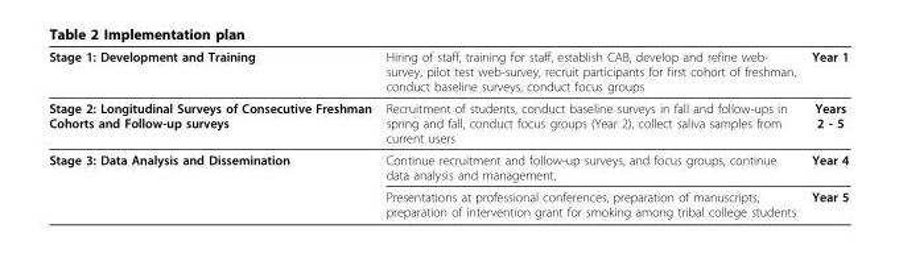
<table><thead><tr><td>Stage 1: Development and Training</td><td>Hiring of staff, training for staff, establish CAB, develop and refine web- survey, pilot test web-survey, recruit participants for first cohort of freshman, conduct baseline surveys, conduct focus groups</td><td>Year 1</td></tr></thead><tbody><tr><td>Stage 2: Longitudinal Surveys of Consecutive Freshman Cohorts and Follow-up surveys</td><td>Recruitment of students, conduct baseline surveys in fall and follow-ups in spring and fall, conduct focus groups (Year 2), collect saliva samples from current users</td><td>Years 2 - 5</td></tr><tr><td rowspan="2">Stage 3: Data Analysis and Dissemination</td><td>Continue recruitment and follow-up surveys, and focus groups, continue data analysis and management,</td><td>Year 4</td></tr><tr><td>Presentations at professional conferences, preparation of manuscripts, preparation of intervention grant for smoking among tribal college students</td><td>Year 5</td></tr></tbody></table>